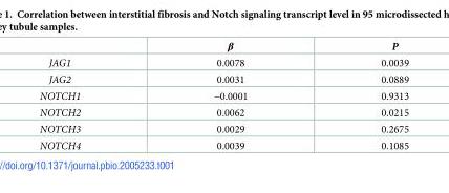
<table><thead><tr><td></td><td>β</td><td>P</td></tr></thead><tbody><tr><td>JAG1</td><td>0.0078</td><td>0.0039</td></tr><tr><td>JAG2</td><td>0.0031</td><td>0.0889</td></tr><tr><td>NOTCH1</td><td>−0.0001</td><td>0.9313</td></tr><tr><td>NOTCH2</td><td>0.0062</td><td>0.0215</td></tr><tr><td>NOTCH3</td><td>0.0029</td><td>0.2675</td></tr><tr><td>NOTCH4</td><td>0.0039</td><td>0.1085</td></tr></tbody></table>